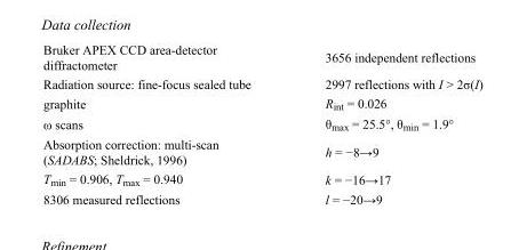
<table><tbody><tr><td>Bruker APEX CCD area-detector diffractometer</td><td>3656 independent reflections</td></tr><tr><td>Radiation source: fine-focus sealed tube</td><td>2997 reflections with I &gt; 2σ(I)</td></tr><tr><td>graphite</td><td>R<sub>int</sub> = 0.026</td></tr><tr><td>ω scans</td><td>θ<sub>max</sub> = 25.5°, θ<sub>min</sub> = 1.9°</td></tr><tr><td>Absorption correction: multi-scan (SADABS; Sheldrick, 1996)</td><td>h = −8→9</td></tr><tr><td>T<sub>min</sub> = 0.906, T<sub>max</sub> = 0.940</td><td>k = −16→17</td></tr><tr><td>8306 measured reflections</td><td>l = −20→9</td></tr></tbody></table>